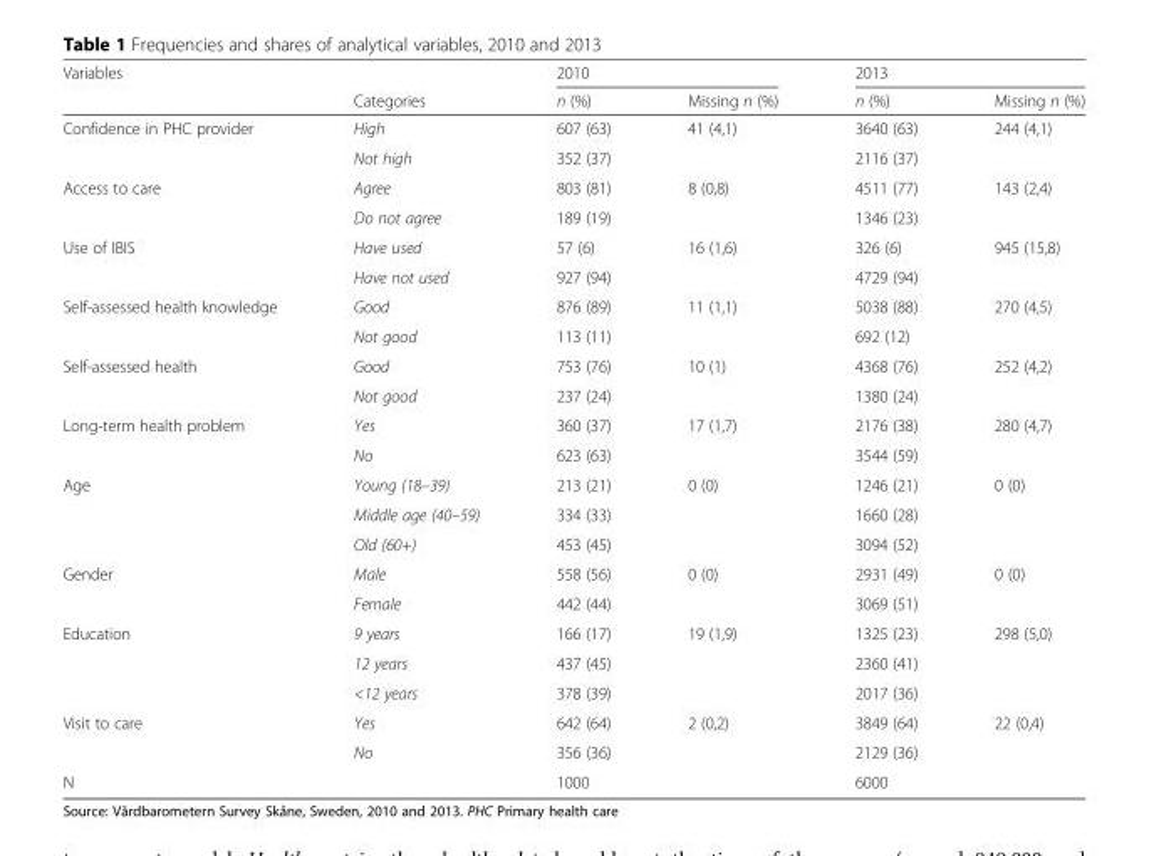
<table><thead><tr><td rowspan="2">Variables</td><td rowspan="2">Categories</td><td colspan="2">2010</td><td colspan="2">2013</td></tr><tr><td>n (%)</td><td>Missing n (%)</td><td>n (%)</td><td>Missing n (%)</td></tr></thead><tbody><tr><td rowspan="2">Confidence in PHC provider</td><td>High</td><td>607 (63)</td><td>41 (4,1)</td><td>3640 (63)</td><td>244 (4,1)</td></tr><tr><td>Not high</td><td>352 (37)</td><td></td><td>2116 (37)</td><td></td></tr><tr><td rowspan="2">Access to care</td><td>Agree</td><td>803 (81)</td><td>8 (0,8)</td><td>4511 (77)</td><td>143 (2,4)</td></tr><tr><td>Do not agree</td><td>189 (19)</td><td></td><td>1346 (23)</td><td></td></tr><tr><td rowspan="2">Use of IBIS</td><td>Have used</td><td>57 (6)</td><td>16 (1,6)</td><td>326 (6)</td><td>945 (15,8)</td></tr><tr><td>Have not used</td><td>927 (94)</td><td></td><td>4729 (94)</td><td></td></tr><tr><td rowspan="2">Self-assessed health knowledge</td><td>Good</td><td>876 (89)</td><td>11 (1,1)</td><td>5038 (88)</td><td>270 (4,5)</td></tr><tr><td>Not good</td><td>113 (11)</td><td></td><td>692 (12)</td><td></td></tr><tr><td rowspan="2">Self-assessed health</td><td>Good</td><td>753 (76)</td><td>10 (1)</td><td>4368 (76)</td><td>252 (4,2)</td></tr><tr><td>Not good</td><td>237 (24)</td><td></td><td>1380 (24)</td><td></td></tr><tr><td rowspan="2">Long-term health problem</td><td>Yes</td><td>360 (37)</td><td>17 (1,7)</td><td>2176 (38)</td><td>280 (4,7)</td></tr><tr><td>No</td><td>623 (63)</td><td></td><td>3544 (59)</td><td></td></tr><tr><td rowspan="3">Age</td><td>Young (18–39)</td><td>213 (21)</td><td>0 (0)</td><td>1246 (21)</td><td>0 (0)</td></tr><tr><td>Middle age (40–59)</td><td>334 (33)</td><td></td><td>1660 (28)</td><td></td></tr><tr><td>Old (60+)</td><td>453 (45)</td><td></td><td>3094 (52)</td><td></td></tr><tr><td rowspan="2">Gender</td><td>Male</td><td>558 (56)</td><td>0 (0)</td><td>2931 (49)</td><td>0 (0)</td></tr><tr><td>Female</td><td>442 (44)</td><td></td><td>3069 (51)</td><td></td></tr><tr><td rowspan="3">Education</td><td>9 years</td><td>166 (17)</td><td>19 (1,9)</td><td>1325 (23)</td><td>298 (5,0)</td></tr><tr><td>12 years</td><td>437 (45)</td><td></td><td>2360 (41)</td><td></td></tr><tr><td>&lt;12 years</td><td>378 (39)</td><td></td><td>2017 (36)</td><td></td></tr><tr><td rowspan="2">Visit to care</td><td>Yes</td><td>642 (64)</td><td>2 (0,2)</td><td>3849 (64)</td><td>22 (0,4)</td></tr><tr><td>No</td><td>356 (36)</td><td></td><td>2129 (36)</td><td></td></tr><tr><td>N</td><td></td><td>1000</td><td></td><td>6000</td><td></td></tr></tbody></table>